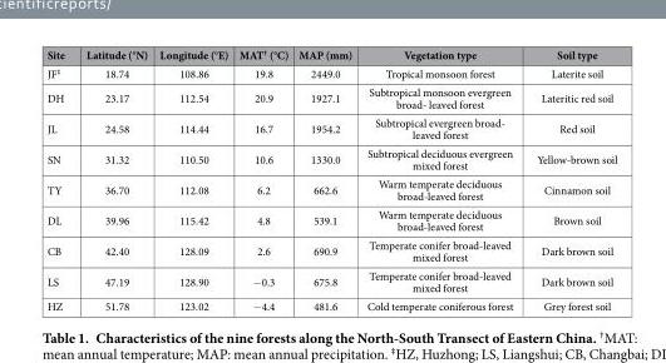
<table><thead><tr><td>Site</td><td>Latitude (°N)</td><td>Longitude (°E)</td><td>MAT† (°C)</td><td>MAP (mm)</td><td>Vegetation type</td><td>Soil type</td></tr></thead><tbody><tr><td>JF‡</td><td>18.74</td><td>108.86</td><td>19.8</td><td>2449.0</td><td>Tropical monsoon forest</td><td>Laterite soil</td></tr><tr><td>DH</td><td>23.17</td><td>112.54</td><td>20.9</td><td>1927.1</td><td>Subtropical monsoon evergreen broad- leaved forest</td><td>Lateritic red soil</td></tr><tr><td>JL</td><td>24.58</td><td>114.44</td><td>16.7</td><td>1954.2</td><td>Subtropical evergreen broad- leaved forest</td><td>Red soil</td></tr><tr><td>SN</td><td>31.32</td><td>110.50</td><td>10.6</td><td>1330.0</td><td>Subtropical deciduous evergreen mixed forest</td><td>Yellow-brown soil</td></tr><tr><td>TY</td><td>36.70</td><td>112.08</td><td>6.2</td><td>662.6</td><td>Warm temperate deciduous broad-leaved forest</td><td>Cinnamon soil</td></tr><tr><td>DL</td><td>39.96</td><td>115.42</td><td>4.8</td><td>539.1</td><td>Warm temperate deciduous broad-leaved forest</td><td>Brown soil</td></tr><tr><td>CB</td><td>42.40</td><td>128.09</td><td>2.6</td><td>690.9</td><td>Temperate conifer broad-leaved mixed forest</td><td>Dark brown soil</td></tr><tr><td>LS</td><td>47.19</td><td>128.90</td><td>− 0.3</td><td>675.8</td><td>Temperate conifer broad-leaved mixed forest</td><td>Dark brown soil</td></tr><tr><td>HZ</td><td>51.78</td><td>123.02</td><td>− 4.4</td><td>481.6</td><td>Cold temperate coniferous forest</td><td>Grey forest soil</td></tr></tbody></table>